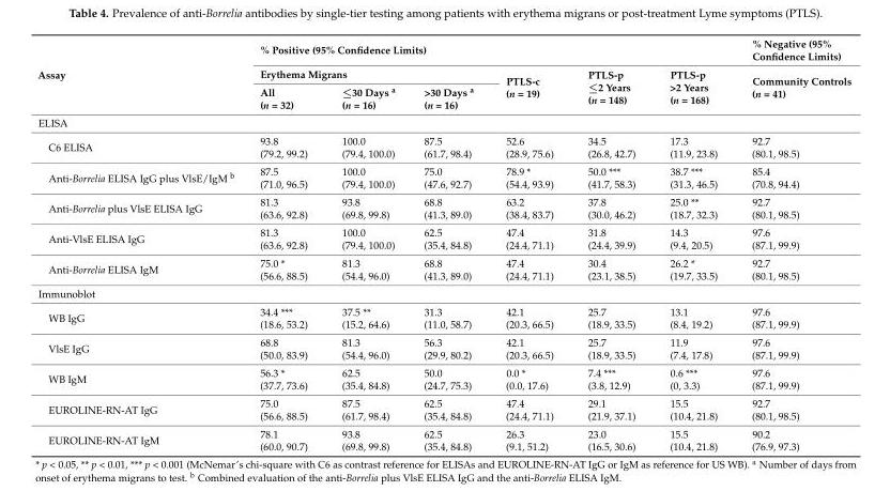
<table><thead><tr><td rowspan="3">Assay</td><td colspan="6">% Positive (95% Confidence Limits)</td><td rowspan="3">% Negative (95% Confidence Limits) Community Controls (n = 41)</td></tr><tr><td colspan="3">Erythema Migrans</td><td rowspan="2">PTLS-c (n = 19)</td><td rowspan="2">PTLS-p ≤2 Years (n = 148)</td><td rowspan="2">PTLS-p &gt;2 Years (n = 168)</td></tr><tr><td>All (n = 32)</td><td>≤30 Days <sup>a</sup> (n = 16)</td><td>&gt;30 Days <sup>a</sup> (n = 16)</td></tr></thead><tbody><tr><td colspan="8">ELISA</td></tr><tr><td>C6 ELISA</td><td>93.8 (79.2, 99.2)</td><td>100.0 (79.4, 100.0)</td><td>87.5 (61.7, 98.4)</td><td>52.6 (28.9, 75.6)</td><td>34.5 (26.8, 42.7)</td><td>17.3 (11.9, 23.8)</td><td>92.7 (80.1, 98.5)</td></tr><tr><td>Anti-Borrelia ELISA IgG plus VlsE/IgM <sup>b</sup></td><td>87.5 (71.0, 96.5)</td><td>100.0 (79.4, 100.0)</td><td>75.0 (47.6, 92.7)</td><td>78.9 * (54.4, 93.9)</td><td>50.0 *** (41.7, 58.3)</td><td>38.7 *** (31.3, 46.5)</td><td>85.4 (70.8, 94.4)</td></tr><tr><td>Anti-Borrelia plus VlsE ELISA IgG</td><td>81.3 (63.6, 92.8)</td><td>93.8 (69.8, 99.8)</td><td>68.8 (41.3, 89.0)</td><td>63.2 (38.4, 83.7)</td><td>37.8 (30.0, 46.2)</td><td>25.0 ** (18.7, 32.3)</td><td>92.7 (80.1, 98.5)</td></tr><tr><td>Anti-VlsE ELISA IgG</td><td>81.3 (63.6, 92.8)</td><td>100.0 (79.4, 100.0)</td><td>62.5 (35.4, 84.8)</td><td>47.4 (24.4, 71.1)</td><td>31.8 (24.4, 39.9)</td><td>14.3 (9.4, 20.5)</td><td>97.6 (87.1, 99.9)</td></tr><tr><td>Anti-Borrelia ELISA IgM</td><td>75.0 * (56.6, 88.5)</td><td>81.3 (54.4, 96.0)</td><td>68.8 (41.3, 89.0)</td><td>47.4 (24.4, 71.1)</td><td>30.4 (23.1, 38.5)</td><td>26.2 * (19.7, 33.5)</td><td>92.7 (80.1, 98.5)</td></tr><tr><td colspan="8">Immunoblot</td></tr><tr><td>WB IgG</td><td>34.4 *** (18.6, 53.2)</td><td>37.5 ** (15.2, 64.6)</td><td>31.3 (11.0, 58.7)</td><td>42.1 (20.3, 66.5)</td><td>25.7 (18.9, 33.5)</td><td>13.1 (8.4, 19.2)</td><td>97.6 (87.1, 99.9)</td></tr><tr><td>VlsE IgG</td><td>68.8 (50.0, 83.9)</td><td>81.3 (54.4, 96.0)</td><td>56.3 (29.9, 80.2)</td><td>42.1 (20.3, 66.5)</td><td>25.7 (18.9, 33.5)</td><td>11.9 (7.4, 17.8)</td><td>97.6 (87.1, 99.9)</td></tr><tr><td>WB IgM</td><td>56.3 * (37.7, 73.6)</td><td>62.5 (35.4, 84.8)</td><td>50.0 (24.7, 75.3)</td><td>0.0 * (0.0, 17.6)</td><td>7.4 *** (3.8, 12.9)</td><td>0.6 *** (0, 3.3)</td><td>97.6 (87.1, 99.9)</td></tr><tr><td>EUROLINE-RN-AT IgG</td><td>75.0 (56.6, 88.5)</td><td>87.5 (61.7, 98.4)</td><td>62.5 (35.4, 84.8)</td><td>47.4 (24.4, 71.1)</td><td>29.1 (21.9, 37.1)</td><td>15.5 (10.4, 21.8)</td><td>92.7 (80.1, 98.5)</td></tr><tr><td>EUROLINE-RN-AT IgM</td><td>78.1 (60.0, 90.7)</td><td>93.8 (69.8, 99.8)</td><td>62.5 (35.4, 84.8)</td><td>26.3 (9.1, 51.2)</td><td>23.0 (16.5, 30.6)</td><td>15.5 (10.4, 21.8)</td><td>90.2 (76.9, 97.3)</td></tr></tbody></table>